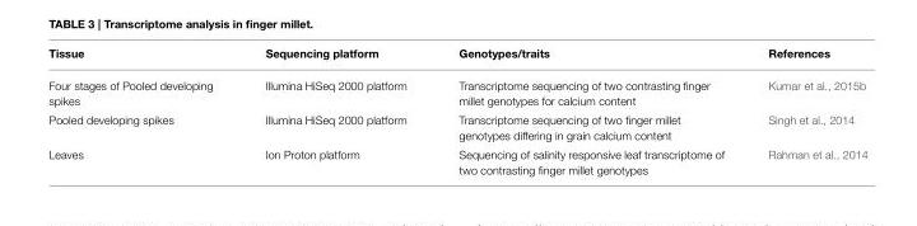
<table><thead><tr><td>Tissue</td><td>Sequencing platform</td><td>Genotypes/traits</td><td>References</td></tr></thead><tbody><tr><td>Four stages of Pooled developing spikes</td><td>Illumina HiSeq 2000 platform</td><td>Transcriptome sequencing of two contrasting finger millet genotypes for calcium content</td><td>Kumar et al., 2015b</td></tr><tr><td>Pooled developing spikes</td><td>Illumina HiSeq 2000 platform</td><td>Transcriptome sequencing of two finger millet genotypes differing in grain calcium content</td><td>Singh et al., 2014</td></tr><tr><td>Leaves</td><td>Ion Proton platform</td><td>Sequencing of salinity responsive leaf transcriptome of two contrasting finger millet genotypes</td><td>Rahman et al., 2014</td></tr></tbody></table>